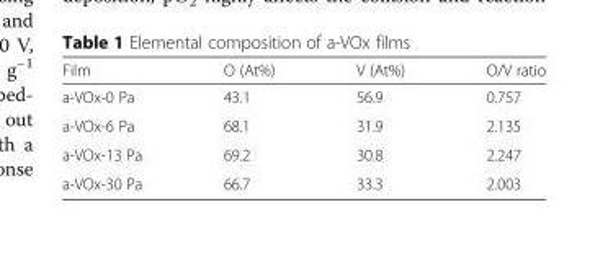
<table><thead><tr><td>Film</td><td>O (At%)</td><td>V (At%)</td><td>O/V ratio</td></tr></thead><tbody><tr><td>a-VOx-0 Pa</td><td>43.1</td><td>56.9</td><td>0.757</td></tr><tr><td>a-VOx-6 Pa</td><td>68.1</td><td>31.9</td><td>2.135</td></tr><tr><td>a-VOx-13 Pa</td><td>69.2</td><td>30.8</td><td>2.247</td></tr><tr><td>a-VOx-30 Pa</td><td>66.7</td><td>33.3</td><td>2.003</td></tr></tbody></table>